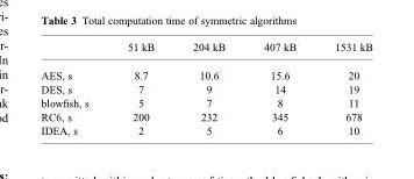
<table><thead><tr><td></td><td>51 kB</td><td>204 kB</td><td>407 kB</td><td>1531 kB</td></tr></thead><tbody><tr><td>AES, s</td><td>8.7</td><td>10.6</td><td>15.6</td><td>20</td></tr><tr><td>DES, s</td><td>7</td><td>9</td><td>14</td><td>19</td></tr><tr><td>blowfish, s</td><td>5</td><td>7</td><td>8</td><td>11</td></tr><tr><td>RC6, s</td><td>200</td><td>232</td><td>345</td><td>678</td></tr><tr><td>IDEA, s</td><td>2</td><td>5</td><td>6</td><td>10</td></tr></tbody></table>